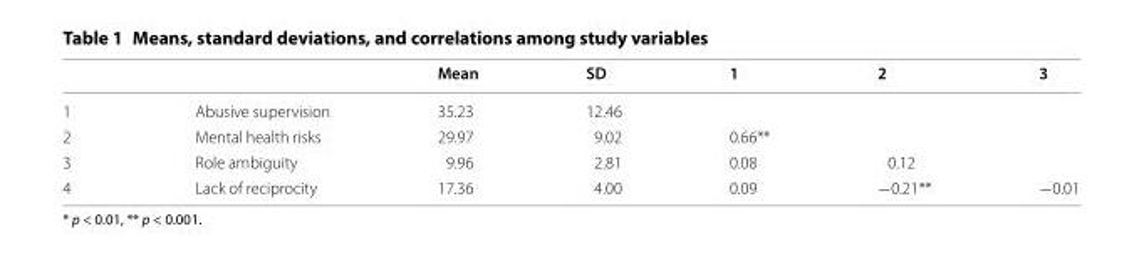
<table><thead><tr><td></td><td></td><td>Mean</td><td>SD</td><td>1</td><td>2</td><td>3</td></tr></thead><tbody><tr><td>1</td><td>Abusive supervision</td><td>35.23</td><td>12.46</td><td></td><td></td><td></td></tr><tr><td>2</td><td>Mental health risks</td><td>29.97</td><td>9.02</td><td>0.66**</td><td></td><td></td></tr><tr><td>3</td><td>Role ambiguity</td><td>9.96</td><td>2.81</td><td>0.08</td><td>0.12</td><td></td></tr><tr><td>4</td><td>Lack of reciprocity</td><td>17.36</td><td>4.00</td><td>0.09</td><td>−0.21**</td><td>−0.01</td></tr></tbody></table>